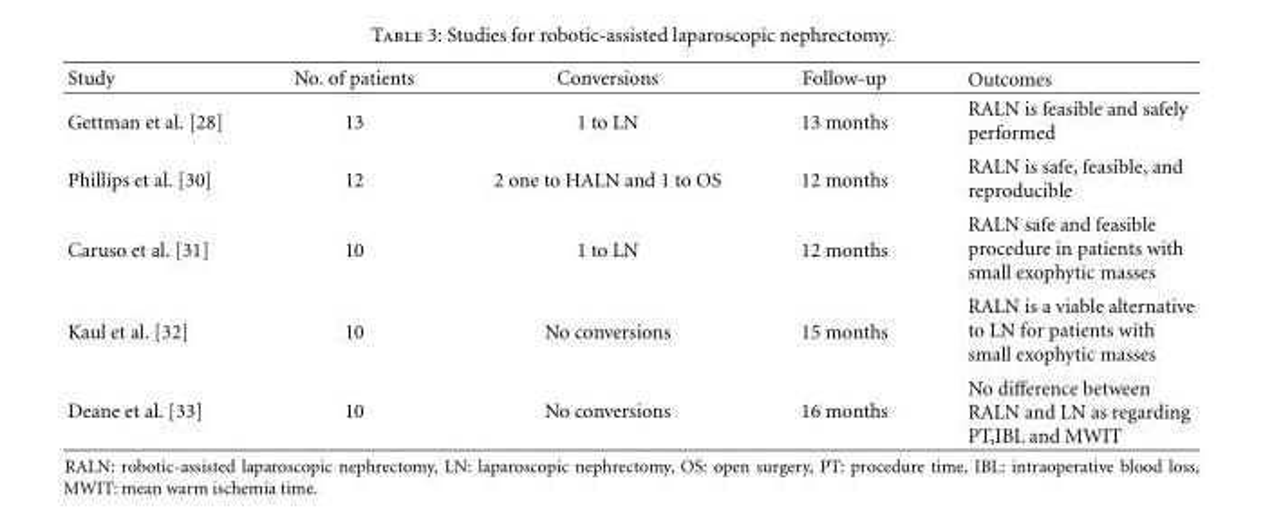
<table><thead><tr><td>Study</td><td>No. of patients</td><td>Conversions</td><td>Follow-up</td><td>Outcomes</td></tr></thead><tbody><tr><td>Gettman et al. [28]</td><td>13</td><td>1 to LN</td><td>13 months</td><td>RALN is feasible and safely performed</td></tr><tr><td>Phillips et al. [30]</td><td>12</td><td>2 one to HALN and 1 to OS</td><td>12 months</td><td>RALN is safe, feasible, and reproducible</td></tr><tr><td>Caruso et al. [31]</td><td>10</td><td>1 to LN</td><td>12 months</td><td>RALN safe and feasible procedure in patients with small exophytic masses</td></tr><tr><td>Kaul et al. [32]</td><td>10</td><td>No conversions</td><td>15 months</td><td>RALN is a viable alternative to LN for patients with small exophytic masses</td></tr><tr><td>Deane et al. [33]</td><td>10</td><td>No conversions</td><td>16 months</td><td>No difference between RALN and LN as regarding PT,IBL and MWIT</td></tr></tbody></table>